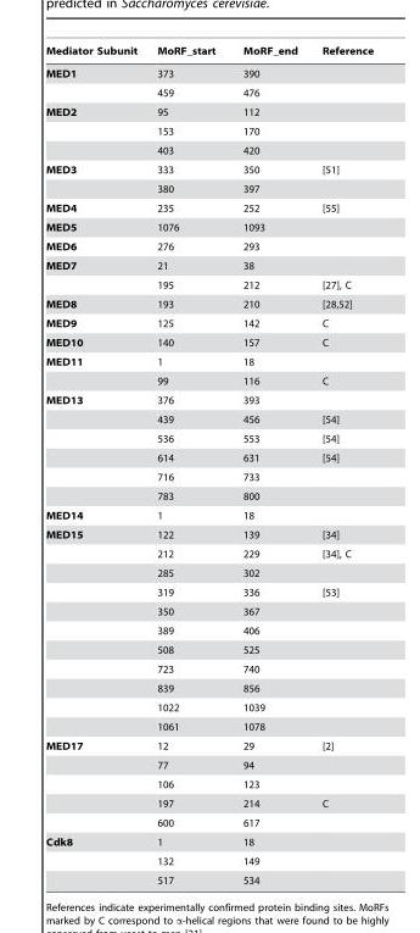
<table><thead><tr><td>Mediator Subunit</td><td>MoRF_start</td><td>MoRF_end</td><td>Reference</td></tr></thead><tbody><tr><td rowspan="2">MED1</td><td>373</td><td>390</td><td></td></tr><tr><td>459</td><td>476</td><td></td></tr><tr><td rowspan="3">MED2</td><td>95</td><td>112</td><td></td></tr><tr><td>153</td><td>170</td><td></td></tr><tr><td>403</td><td>420</td><td></td></tr><tr><td rowspan="2">MED3</td><td>333</td><td>350</td><td>[51]</td></tr><tr><td>380</td><td>397</td><td></td></tr><tr><td>MED4</td><td>235</td><td>252</td><td>[55]</td></tr><tr><td>MED5</td><td>1076</td><td>1093</td><td></td></tr><tr><td>MED6</td><td>276</td><td>293</td><td></td></tr><tr><td rowspan="2">MED7</td><td>21</td><td>38</td><td></td></tr><tr><td>195</td><td>212</td><td>[27], C</td></tr><tr><td>MED8</td><td>193</td><td>210</td><td>[28,52]</td></tr><tr><td>MED9</td><td>125</td><td>142</td><td>C</td></tr><tr><td>MED10</td><td>140</td><td>157</td><td>C</td></tr><tr><td rowspan="2">MED11</td><td>1</td><td>18</td><td></td></tr><tr><td>99</td><td>116</td><td>C</td></tr><tr><td rowspan="6">MED13</td><td>376</td><td>393</td><td></td></tr><tr><td>439</td><td>456</td><td>[54]</td></tr><tr><td>536</td><td>553</td><td>[54]</td></tr><tr><td>614</td><td>631</td><td>[54]</td></tr><tr><td>716</td><td>733</td><td></td></tr><tr><td>783</td><td>800</td><td></td></tr><tr><td>MED14</td><td>1</td><td>18</td><td></td></tr><tr><td rowspan="11">MED15</td><td>122</td><td>139</td><td>[34]</td></tr><tr><td>212</td><td>229</td><td>[34], C</td></tr><tr><td>285</td><td>302</td><td></td></tr><tr><td>319</td><td>336</td><td>[53]</td></tr><tr><td>350</td><td>367</td><td></td></tr><tr><td>389</td><td>406</td><td></td></tr><tr><td>508</td><td>525</td><td></td></tr><tr><td>723</td><td>740</td><td></td></tr><tr><td>839</td><td>856</td><td></td></tr><tr><td>1022</td><td>1039</td><td></td></tr><tr><td>1061</td><td>1078</td><td></td></tr><tr><td rowspan="5">MED17</td><td>12</td><td>29</td><td>[2]</td></tr><tr><td>77</td><td>94</td><td></td></tr><tr><td>106</td><td>123</td><td></td></tr><tr><td>197</td><td>214</td><td>C</td></tr><tr><td>600</td><td>617</td><td></td></tr><tr><td rowspan="3">Cdk8</td><td>1</td><td>18</td><td></td></tr><tr><td>132</td><td>149</td><td></td></tr><tr><td>517</td><td>534</td><td></td></tr></tbody></table>